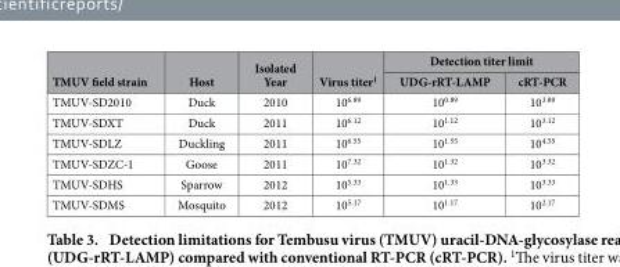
<table><thead><tr><td rowspan="2">TMUV field strain</td><td rowspan="2">Host</td><td rowspan="2">Isolated Year</td><td rowspan="2">Virus titer<sup>1</sup></td><td colspan="2">Detection titer limit</td></tr><tr><td>UDG-rRT-LAMP</td><td>cRT-PCR</td></tr></thead><tbody><tr><td>TMUV-SD2010</td><td>Duck</td><td>2010</td><td>10<sup>6.89</sup></td><td>10<sup>0.89</sup></td><td>10<sup>3.89</sup></td></tr><tr><td>TMUV-SDXT</td><td>Duck</td><td>2011</td><td>10<sup>6.12</sup></td><td>10<sup>1.12</sup></td><td>10<sup>3.12</sup></td></tr><tr><td>TMUV-SDLZ</td><td>Duckling</td><td>2011</td><td>10<sup>6.55</sup></td><td>10<sup>1.55</sup></td><td>10<sup>4.55</sup></td></tr><tr><td>TMUV-SDZC-1</td><td>Goose</td><td>2011</td><td>10<sup>7.32</sup></td><td>10<sup>1.32</sup></td><td>10<sup>3.32</sup></td></tr><tr><td>TMUV-SDHS</td><td>Sparrow</td><td>2012</td><td>10<sup>5.33</sup></td><td>10<sup>1.33</sup></td><td>10<sup>3.33</sup></td></tr><tr><td>TMUV-SDMS</td><td>Mosquito</td><td>2012</td><td>10<sup>5.17</sup></td><td>10<sup>1.17</sup></td><td>10<sup>2.17</sup></td></tr></tbody></table>